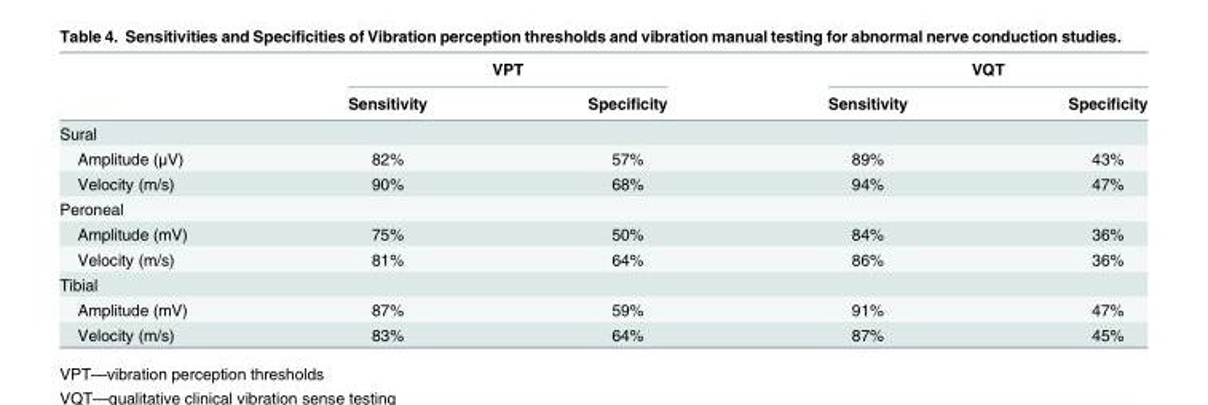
<table><thead><tr><td rowspan="2"></td><td colspan="2">VPT</td><td colspan="2">VQT</td></tr><tr><td>Sensitivity</td><td>Specificity</td><td>Sensitivity</td><td>Specificity</td></tr></thead><tbody><tr><td colspan="5">Sural</td></tr><tr><td>Amplitude (μV)</td><td>82%</td><td>57%</td><td>89%</td><td>43%</td></tr><tr><td>Velocity (m/s)</td><td>90%</td><td>68%</td><td>94%</td><td>47%</td></tr><tr><td colspan="5">Peroneal</td></tr><tr><td>Amplitude (mV)</td><td>75%</td><td>50%</td><td>84%</td><td>36%</td></tr><tr><td>Velocity (m/s)</td><td>81%</td><td>64%</td><td>86%</td><td>36%</td></tr><tr><td colspan="5">Tibial</td></tr><tr><td>Amplitude (mV)</td><td>87%</td><td>59%</td><td>91%</td><td>47%</td></tr><tr><td>Velocity (m/s)</td><td>83%</td><td>64%</td><td>87%</td><td>45%</td></tr></tbody></table>